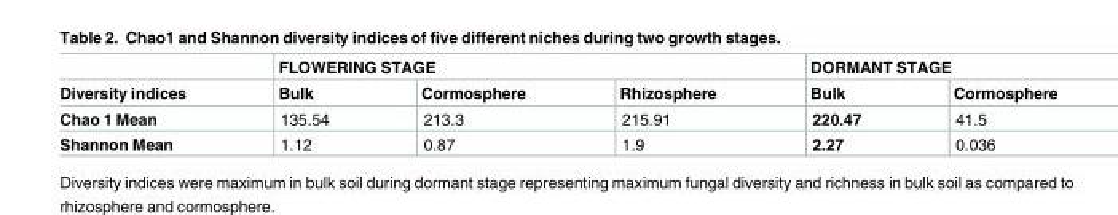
<table><thead><tr><td rowspan="2">Diversity indices</td><td colspan="3">FLOWERING STAGE</td><td colspan="2">DORMANT STAGE</td></tr><tr><td>Bulk</td><td>Cormosphere</td><td>Rhizosphere</td><td>Bulk</td><td>Cormosphere</td></tr></thead><tbody><tr><td>Chao 1 Mean</td><td>135.54</td><td>213.3</td><td>215.91</td><td>220.47</td><td>41.5</td></tr><tr><td>Shannon Mean</td><td>1.12</td><td>0.87</td><td>1.9</td><td>2.27</td><td>0.036</td></tr></tbody></table>